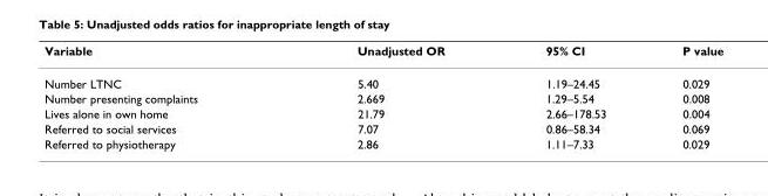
<table><thead><tr><td>Variable</td><td>Unadjusted OR</td><td>95% CI</td><td>P value</td></tr></thead><tbody><tr><td>Number LTNC</td><td>5.40</td><td>1.19–24.45</td><td>0.029</td></tr><tr><td>Number presenting complaints</td><td>2.669</td><td>1.29–5.54</td><td>0.008</td></tr><tr><td>Lives alone in own home</td><td>21.79</td><td>2.66–178.53</td><td>0.004</td></tr><tr><td>Referred to social services</td><td>7.07</td><td>0.86–58.34</td><td>0.069</td></tr><tr><td>Referred to physiotherapy</td><td>2.86</td><td>1.11–7.33</td><td>0.029</td></tr></tbody></table>